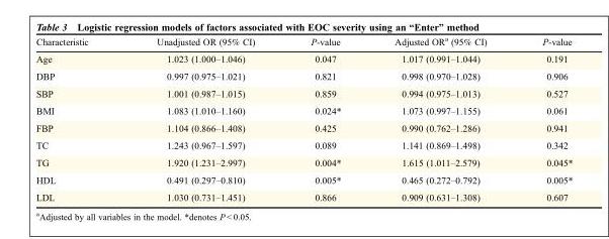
<table><thead><tr><td>Characteristic</td><td>Unadjusted OR (95% CI)</td><td>P-value</td><td>Adjusted OR<sup>a</sup> (95% CI)</td><td>P-value</td></tr></thead><tbody><tr><td>Age</td><td>1.023 (1.000–1.046)</td><td>0.047</td><td>1.017 (0.991–1.044)</td><td>0.191</td></tr><tr><td>DBP</td><td>0.997 (0.975–1.021)</td><td>0.821</td><td>0.998 (0.970–1.028)</td><td>0.906</td></tr><tr><td>SBP</td><td>1.001 (0.987–1.015)</td><td>0.859</td><td>0.994 (0.975–1.013)</td><td>0.527</td></tr><tr><td>BMI</td><td>1.083 (1.010–1.160)</td><td>0.024*</td><td>1.073 (0.997–1.155)</td><td>0.061</td></tr><tr><td>FBP</td><td>1.104 (0.866–1.408)</td><td>0.425</td><td>0.990 (0.762–1.286)</td><td>0.941</td></tr><tr><td>TC</td><td>1.243 (0.967–1.597)</td><td>0.089</td><td>1.141 (0.869–1.498)</td><td>0.342</td></tr><tr><td>TG</td><td>1.920 (1.231–2.997)</td><td>0.004*</td><td>1.615 (1.011–2.579)</td><td>0.045*</td></tr><tr><td>HDL</td><td>0.491 (0.297–0.810)</td><td>0.005*</td><td>0.465 (0.272–0.792)</td><td>0.005*</td></tr><tr><td>LDL</td><td>1.030 (0.731–1.451)</td><td>0.866</td><td>0.909 (0.631–1.308)</td><td>0.607</td></tr></tbody></table>